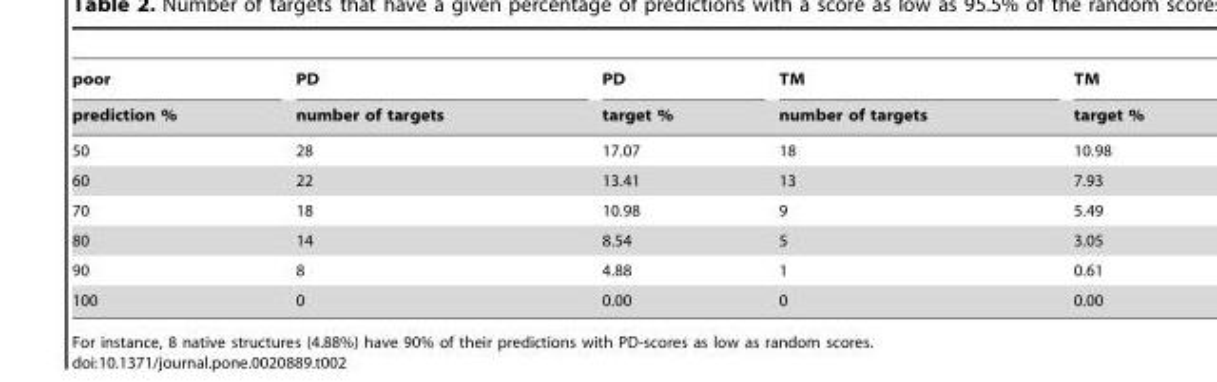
<table><thead><tr><td rowspan="2">poor prediction %</td><td rowspan="2">PD number of targets</td><td rowspan="2">PD target %</td><td rowspan="2">TM number of targets</td><td rowspan="2">TM target %</td></tr><tr></tr></thead><tbody><tr><td>50</td><td>28</td><td>17.07</td><td>18</td><td>10.98</td></tr><tr><td>60</td><td>22</td><td>13.41</td><td>13</td><td>7.93</td></tr><tr><td>70</td><td>18</td><td>10.98</td><td>9</td><td>5.49</td></tr><tr><td>80</td><td>14</td><td>8.54</td><td>5</td><td>3.05</td></tr><tr><td>90</td><td>8</td><td>4.88</td><td>1</td><td>0.61</td></tr><tr><td>100</td><td>0</td><td>0.00</td><td>0</td><td>0.00</td></tr></tbody></table>